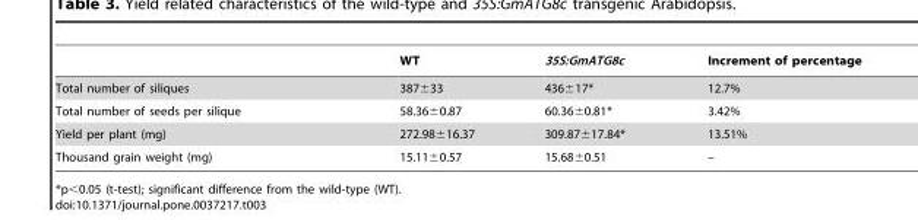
<table><thead><tr><td></td><td>WT</td><td>35S:GmATG8c</td><td>Increment of percentage</td></tr></thead><tbody><tr><td>Total number of siliques</td><td>387±33</td><td>436±17*</td><td>12.7%</td></tr><tr><td>Total number of seeds per silique</td><td>58.36±0.87</td><td>60.36±0.81*</td><td>3.42%</td></tr><tr><td>Yield per plant (mg)</td><td>272.98±16.37</td><td>309.87±17.84*</td><td>13.51%</td></tr><tr><td>Thousand grain weight (mg)</td><td>15.11±0.57</td><td>15.68±0.51</td><td>–</td></tr></tbody></table>